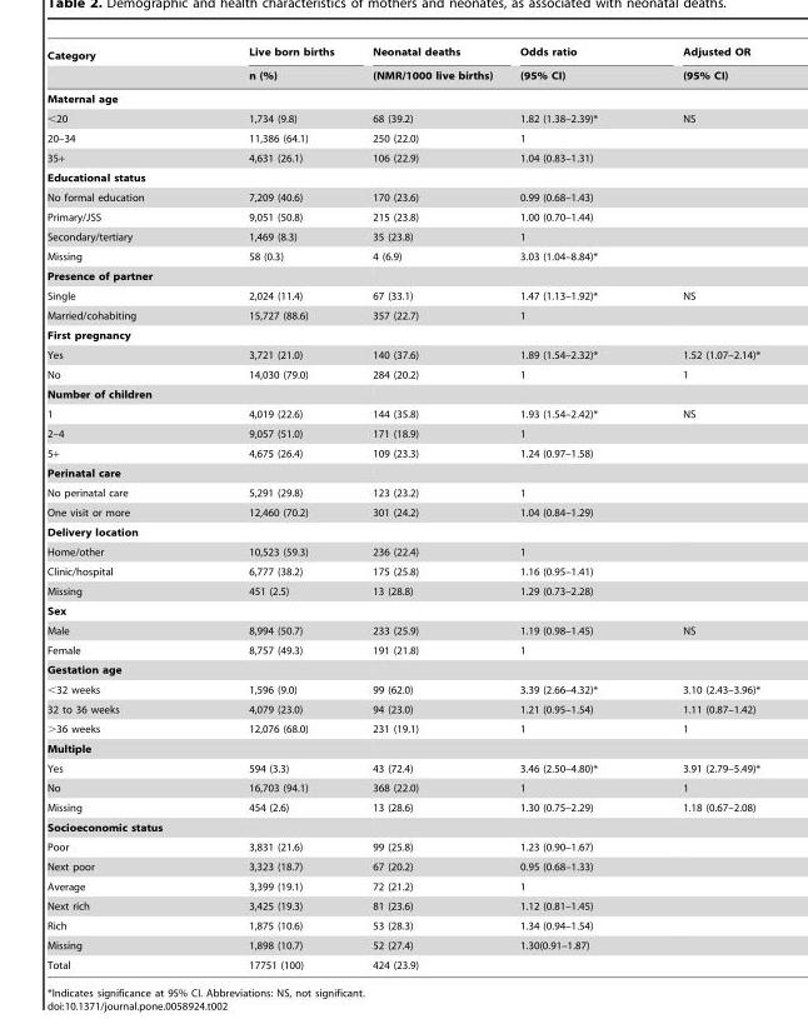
<table><thead><tr><td rowspan="2">Category</td><td rowspan="2">Live born births n (%)</td><td rowspan="2">Neonatal deaths (NMR/1000 live births)</td><td rowspan="2">Odds ratio (95% CI)</td><td rowspan="2">Adjusted OR (95% CI)</td></tr><tr></tr></thead><tbody><tr><td colspan="5">Maternal age</td></tr><tr><td>&lt;20</td><td>1,734 (9.8)</td><td>68 (39.2)</td><td>1.82 (1.38–2.39)*</td><td>NS</td></tr><tr><td>20–34</td><td>11,386 (64.1)</td><td>250 (22.0)</td><td>1</td><td></td></tr><tr><td>35+</td><td>4,631 (26.1)</td><td>106 (22.9)</td><td>1.04 (0.83–1.31)</td><td></td></tr><tr><td colspan="5">Educational status</td></tr><tr><td>No formal education</td><td>7,209 (40.6)</td><td>170 (23.6)</td><td>0.99 (0.68–1.43)</td><td></td></tr><tr><td>Primary/JSS</td><td>9,051 (50.8)</td><td>215 (23.8)</td><td>1.00 (0.70–1.44)</td><td></td></tr><tr><td>Secondary/tertiary</td><td>1,469 (8.3)</td><td>35 (23.8)</td><td>1</td><td></td></tr><tr><td>Missing</td><td>58 (0.3)</td><td>4 (6.9)</td><td>3.03 (1.04–8.84)*</td><td></td></tr><tr><td colspan="5">Presence of partner</td></tr><tr><td>Single</td><td>2,024 (11.4)</td><td>67 (33.1)</td><td>1.47 (1.13–1.92)*</td><td>NS</td></tr><tr><td>Married/cohabiting</td><td>15,727 (88.6)</td><td>357 (22.7)</td><td>1</td><td></td></tr><tr><td colspan="5">First pregnancy</td></tr><tr><td>Yes</td><td>3,721 (21.0)</td><td>140 (37.6)</td><td>1.89 (1.54–2.32)*</td><td>1.52 (1.07–2.14)*</td></tr><tr><td>No</td><td>14,030 (79.0)</td><td>284 (20.2)</td><td>1</td><td>1</td></tr><tr><td colspan="5">Number of children</td></tr><tr><td>1</td><td>4,019 (22.6)</td><td>144 (35.8)</td><td>1.93 (1.54–2.42)*</td><td>NS</td></tr><tr><td>2–4</td><td>9,057 (51.0)</td><td>171 (18.9)</td><td>1</td><td></td></tr><tr><td>5+</td><td>4,675 (26.4)</td><td>109 (23.3)</td><td>1.24 (0.97–1.58)</td><td></td></tr><tr><td colspan="5">Perinatal care</td></tr><tr><td>No perinatal care</td><td>5,291 (29.8)</td><td>123 (23.2)</td><td>1</td><td></td></tr><tr><td>One visit or more</td><td>12,460 (70.2)</td><td>301 (24.2)</td><td>1.04 (0.84–1.29)</td><td></td></tr><tr><td colspan="5">Delivery location</td></tr><tr><td>Home/other</td><td>10,523 (59.3)</td><td>236 (22.4)</td><td>1</td><td></td></tr><tr><td>Clinic/hospital</td><td>6,777 (38.2)</td><td>175 (25.8)</td><td>1.16 (0.95–1.41)</td><td></td></tr><tr><td>Missing</td><td>451 (2.5)</td><td>13 (28.8)</td><td>1.29 (0.73–2.28)</td><td></td></tr><tr><td colspan="5">Sex</td></tr><tr><td>Male</td><td>8,994 (50.7)</td><td>233 (25.9)</td><td>1.19 (0.98–1.45)</td><td>NS</td></tr><tr><td>Female</td><td>8,757 (49.3)</td><td>191 (21.8)</td><td>1</td><td></td></tr><tr><td colspan="5">Gestation age</td></tr><tr><td>&lt;32 weeks</td><td>1,596 (9.0)</td><td>99 (62.0)</td><td>3.39 (2.66–4.32)*</td><td>3.10 (2.43–3.96)*</td></tr><tr><td>32 to 36 weeks</td><td>4,079 (23.0)</td><td>94 (23.0)</td><td>1.21 (0.95–1.54)</td><td>1.11 (0.87–1.42)</td></tr><tr><td>&gt;36 weeks</td><td>12,076 (68.0)</td><td>231 (19.1)</td><td>1</td><td>1</td></tr><tr><td colspan="5">Multiple</td></tr><tr><td>Yes</td><td>594 (3.3)</td><td>43 (72.4)</td><td>3.46 (2.50–4.80)*</td><td>3.91 (2.79–5.49)*</td></tr><tr><td>No</td><td>16,703 (94.1)</td><td>368 (22.0)</td><td>1</td><td>1</td></tr><tr><td>Missing</td><td>454 (2.6)</td><td>13 (28.6)</td><td>1.30 (0.75–2.29)</td><td>1.18 (0.67–2.08)</td></tr><tr><td colspan="5">Socioeconomic status</td></tr><tr><td>Poor</td><td>3,831 (21.6)</td><td>99 (25.8)</td><td>1.23 (0.90–1.67)</td><td></td></tr><tr><td>Next poor</td><td>3,323 (18.7)</td><td>67 (20.2)</td><td>0.95 (0.68–1.33)</td><td></td></tr><tr><td>Average</td><td>3,399 (19.1)</td><td>72 (21.2)</td><td>1</td><td></td></tr><tr><td>Next rich</td><td>3,425 (19.3)</td><td>81 (23.6)</td><td>1.12 (0.81–1.45)</td><td></td></tr><tr><td>Rich</td><td>1,875 (10.6)</td><td>53 (28.3)</td><td>1.34 (0.94–1.54)</td><td></td></tr><tr><td>Missing</td><td>1,898 (10.7)</td><td>52 (27.4)</td><td>1.30(0.91–1.87)</td><td></td></tr><tr><td>Total</td><td>17751 (100)</td><td>424 (23.9)</td><td></td><td></td></tr></tbody></table>